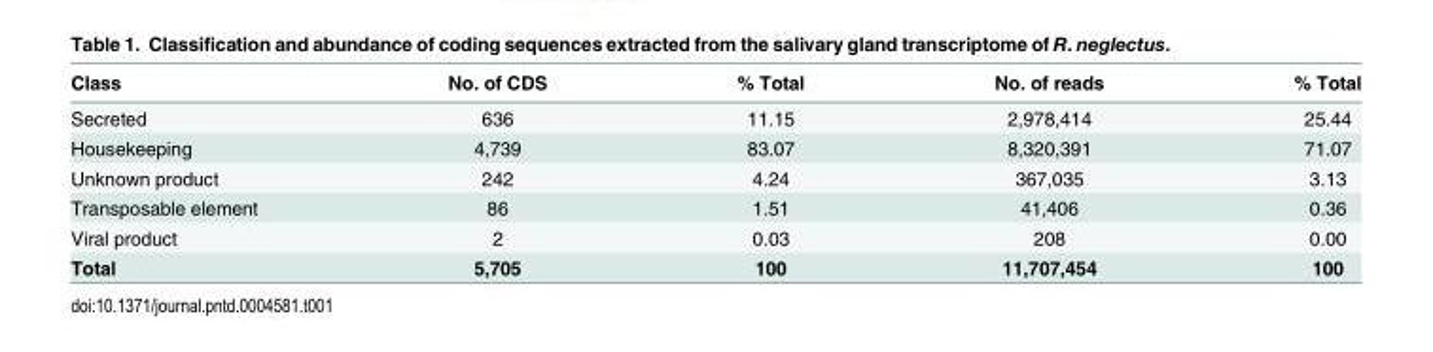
<table><thead><tr><td>Class</td><td>No. of CDS</td><td>% Total</td><td>No. of reads</td><td>% Total</td></tr></thead><tbody><tr><td>Secreted</td><td>636</td><td>11.15</td><td>2,978,414</td><td>25.44</td></tr><tr><td>Housekeeping</td><td>4,739</td><td>83.07</td><td>8,320,391</td><td>71.07</td></tr><tr><td>Unknown product</td><td>242</td><td>4.24</td><td>367,035</td><td>3.13</td></tr><tr><td>Transposable element</td><td>86</td><td>1.51</td><td>41,406</td><td>0.36</td></tr><tr><td>Viral product</td><td>2</td><td>0.03</td><td>208</td><td>0.00</td></tr><tr><td>Total</td><td>5,705</td><td>100</td><td>11,707,454</td><td>100</td></tr></tbody></table>